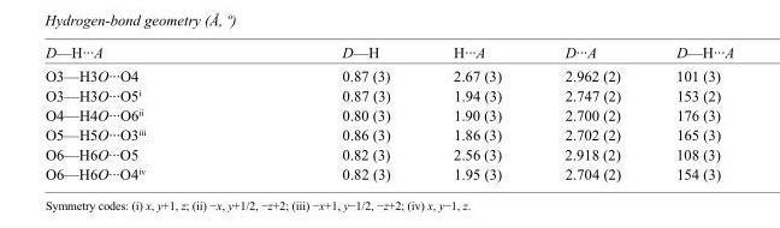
<table><tbody><tr><td>D—H···A</td><td>D—H</td><td>H···A</td><td>D···A</td><td>D—H···A</td></tr><tr><td>O3—H3O···O4</td><td>0.87 (3)</td><td>2.67 (3)</td><td>2.962 (2)</td><td>101 (3)</td></tr><tr><td>O3—H3O···O5<sup>i</sup></td><td>0.87 (3)</td><td>1.94 (3)</td><td>2.747 (2)</td><td>153 (2)</td></tr><tr><td>O4—H4O···O6<sup>ii</sup></td><td>0.80 (3)</td><td>1.90 (3)</td><td>2.700 (2)</td><td>176 (3)</td></tr><tr><td>O5—H5O···O3<sup>iii</sup></td><td>0.86 (3)</td><td>1.86 (3)</td><td>2.702 (2)</td><td>165 (3)</td></tr><tr><td>O6—H6O···O5</td><td>0.82 (3)</td><td>2.56 (3)</td><td>2.918 (2)</td><td>108 (3)</td></tr><tr><td>O6—H6O···O4<sup>iv</sup></td><td>0.82 (3)</td><td>1.95 (3)</td><td>2.704 (2)</td><td>154 (3)</td></tr></tbody></table>